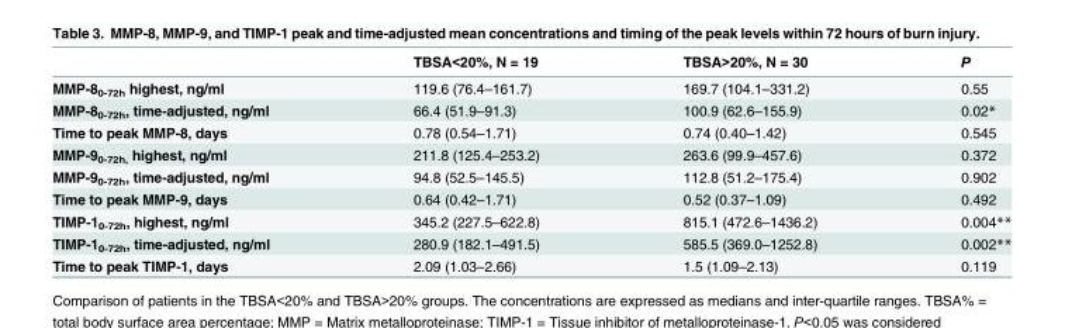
<table><thead><tr><td></td><td>TBSA&lt;20%, N = 19</td><td>TBSA&gt;20%, N = 30</td><td>P</td></tr></thead><tbody><tr><td>MMP-8<sub>0-72h</sub> highest, ng/ml</td><td>119.6 (76.4–161.7)</td><td>169.7 (104.1–331.2)</td><td>0.55</td></tr><tr><td>MMP-8<sub>0-72h</sub>, time-adjusted, ng/ml</td><td>66.4 (51.9–91.3)</td><td>100.9 (62.6–155.9)</td><td>0.02*</td></tr><tr><td>Time to peak MMP-8, days</td><td>0.78 (0.54–1.71)</td><td>0.74 (0.40–1.42)</td><td>0.545</td></tr><tr><td>MMP-9<sub>0-72h,</sub> highest, ng/ml</td><td>211.8 (125.4–253.2)</td><td>263.6 (99.9–457.6)</td><td>0.372</td></tr><tr><td>MMP-9<sub>0-72h</sub>, time-adjusted, ng/ml</td><td>94.8 (52.5–145.5)</td><td>112.8 (51.2–175.4)</td><td>0.902</td></tr><tr><td>Time to peak MMP-9, days</td><td>0.64 (0.42–1.71)</td><td>0.52 (0.37–1.09)</td><td>0.492</td></tr><tr><td>TIMP-1<sub>0-72h</sub>, highest, ng/ml</td><td>345.2 (227.5–622.8)</td><td>815.1 (472.6–1436.2)</td><td>0.004**</td></tr><tr><td>TIMP-1<sub>0-72h</sub>, time-adjusted, ng/ml</td><td>280.9 (182.1–491.5)</td><td>585.5 (369.0–1252.8)</td><td>0.002**</td></tr><tr><td>Time to peak TIMP-1, days</td><td>2.09 (1.03–2.66)</td><td>1.5 (1.09–2.13)</td><td>0.119</td></tr></tbody></table>